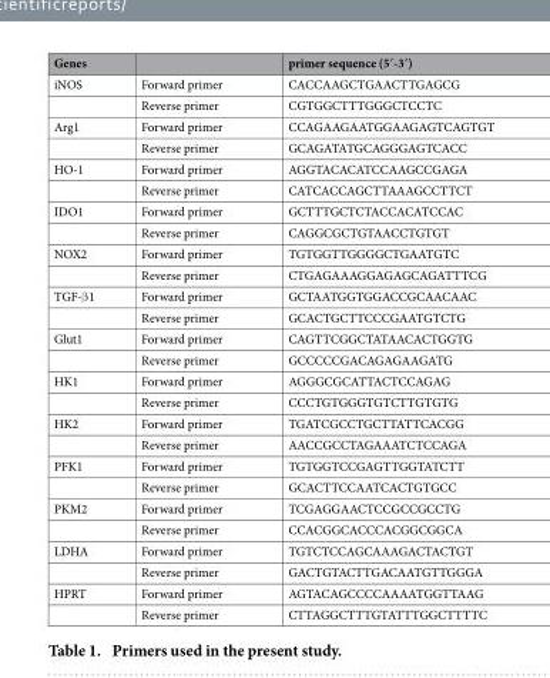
<table><thead><tr><td>Genes</td><td></td><td>primer sequence (5′-3′)</td></tr></thead><tbody><tr><td rowspan="2">iNOS</td><td>Forward primer</td><td>CACCAAGCTGAACTTGAGCG</td></tr><tr><td>Reverse primer</td><td>CGTGGCTTTGGGCTCCTC</td></tr><tr><td rowspan="2">Arg1</td><td>Forward primer</td><td>CCAGAAGAATGGAAGAGTCAGTGT</td></tr><tr><td>Reverse primer</td><td>GCAGATATGCAGGGAGTCACC</td></tr><tr><td rowspan="2">HO-1</td><td>Forward primer</td><td>AGGTACACATCCAAGCCGAGA</td></tr><tr><td>Reverse primer</td><td>CATCACCAGCTTAAAGCCTTCT</td></tr><tr><td rowspan="2">IDO1</td><td>Forward primer</td><td>GCTTTGCTCTACCACATCCAC</td></tr><tr><td>Reverse primer</td><td>CAGGCGCTGTAACCTGTGT</td></tr><tr><td rowspan="2">NOX2</td><td>Forward primer</td><td>TGTGGTTGGGGCTGAATGTC</td></tr><tr><td>Reverse primer</td><td>CTGAGAAAGGAGAGCAGATTTCG</td></tr><tr><td rowspan="2">TGF-β 1</td><td>Forward primer</td><td>GCTAATGGTGGACCGCAACAAC</td></tr><tr><td>Reverse primer</td><td>GCACTGCTTCCCGAATGTCTG</td></tr><tr><td rowspan="2">Glut1</td><td>Forward primer</td><td>CAGTTCGGCTATAACACTGGTG</td></tr><tr><td>Reverse primer</td><td>GCCCCCGACAGAGAAGATG</td></tr><tr><td rowspan="2">HK1</td><td>Forward primer</td><td>AGGGCGCATTACTCCAGAG</td></tr><tr><td>Reverse primer</td><td>CCCTGTGGGTGTCTTGTGTG</td></tr><tr><td rowspan="2">HK2</td><td>Forward primer</td><td>TGATCGCCTGCTTATTCACGG</td></tr><tr><td>Reverse primer</td><td>AACCGCCTAGAAATCTCCAGA</td></tr><tr><td rowspan="2">PFK1</td><td>Forward primer</td><td>TGTGGTCCGAGTTGGTATCTT</td></tr><tr><td>Reverse primer</td><td>GCACTTCCAATCACTGTGCC</td></tr><tr><td rowspan="2">PKM2</td><td>Forward primer</td><td>TCGAGGAACTCCGCCGCCTG</td></tr><tr><td>Reverse primer</td><td>CCACGGCACCCACGGCGGCA</td></tr><tr><td rowspan="2">LDHA</td><td>Forward primer</td><td>TGTCTCCAGCAAAGACTACTGT</td></tr><tr><td>Reverse primer</td><td>GACTGTACTTGACAATGTTGGGA</td></tr><tr><td rowspan="2">HPRT</td><td>Forward primer</td><td>AGTACAGCCCCAAAATGGTTAAG</td></tr><tr><td>Reverse primer</td><td>CTTAGGCTTTGTATTTGGCTTTTC</td></tr></tbody></table>